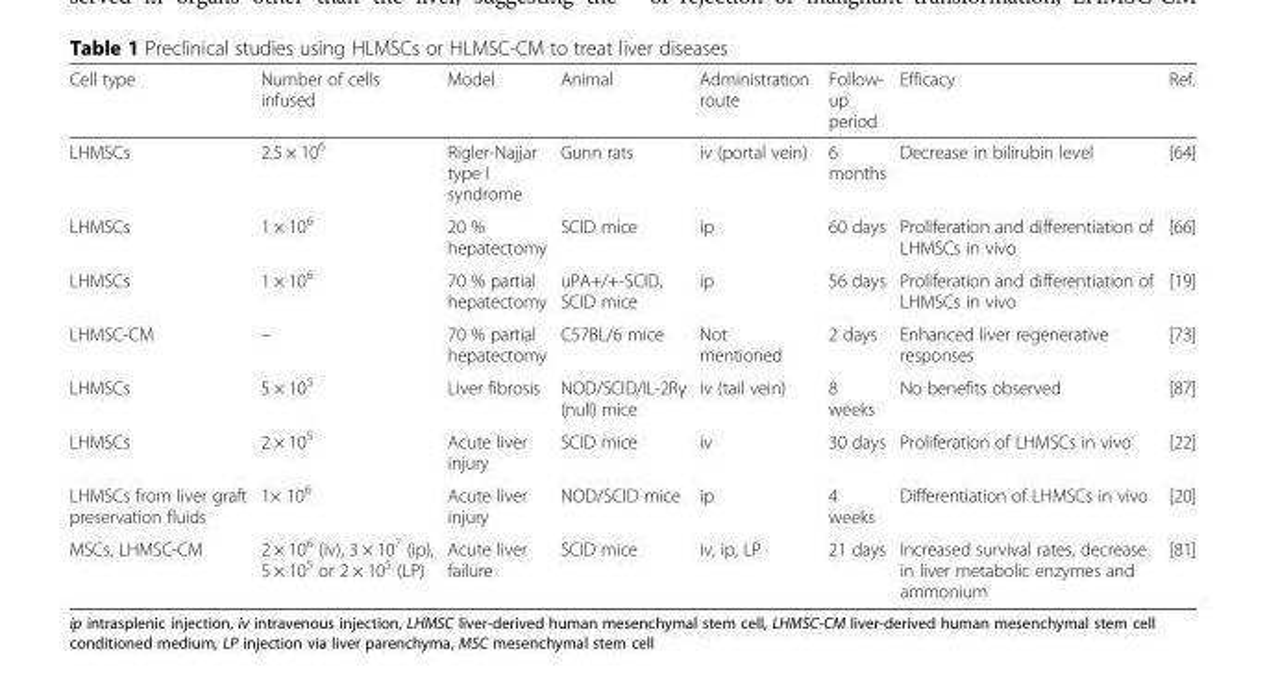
<table><thead><tr><td>Cell type</td><td>Number of cells infused</td><td>Model</td><td>Animal</td><td>Administration route</td><td>Follow- up period</td><td>Efficacy</td><td>Ref.</td></tr></thead><tbody><tr><td>LHMSCs</td><td>2.5 × 10<sup>6</sup></td><td>Rigler-Najjar type I syndrome</td><td>Gunn rats</td><td>iv (portal vein)</td><td>6 months</td><td>Decrease in bilirubin level</td><td>[64]</td></tr><tr><td>LHMSCs</td><td>1 × 10<sup>6</sup></td><td>20 % hepatectomy</td><td>SCID mice</td><td>ip</td><td>60 days</td><td>Proliferation and differentiation of LHMSCs in vivo</td><td>[66]</td></tr><tr><td>LHMSCs</td><td>1 × 10<sup>6</sup></td><td>70 % partial hepatectomy</td><td>uPA+/+-SCID, SCID mice</td><td>ip</td><td>56 days</td><td>Proliferation and differentiation of LHMSCs in vivo</td><td>[19]</td></tr><tr><td>LHMSC-CM</td><td>–</td><td>70 % partial hepatectomy</td><td>C57BL/6 mice</td><td>Not mentioned</td><td>2 days</td><td>Enhanced liver regenerative responses</td><td>[73]</td></tr><tr><td>LHMSCs</td><td>5 × 10<sup>5</sup></td><td>Liver fibrosis</td><td>NOD/SCID/IL-2Rγ (null) mice</td><td>iv (tail vein)</td><td>8 weeks</td><td>No benefits observed</td><td>[87]</td></tr><tr><td>LHMSCs</td><td>2 × 10<sup>5</sup></td><td>Acute liver injury</td><td>SCID mice</td><td>iv</td><td>30 days</td><td>Proliferation of LHMSCs in vivo</td><td>[22]</td></tr><tr><td>LHMSCs from liver graft preservation fluids</td><td>1× 10<sup>6</sup></td><td>Acute liver injury</td><td>NOD/SCID mice</td><td>ip</td><td>4 weeks</td><td>Differentiation of LHMSCs in vivo</td><td>[20]</td></tr><tr><td>MSCs, LHMSC-CM</td><td>2 × 10<sup>6</sup> (iv), 3 × 10<sup>7</sup> (ip), 5 × 10<sup>5</sup> or 2 × 10<sup>5</sup> (LP)</td><td>Acute liver failure</td><td>SCID mice</td><td>iv, ip, LP</td><td>21 days</td><td>Increased survival rates, decrease in liver metabolic enzymes and ammonium</td><td>[81]</td></tr></tbody></table>